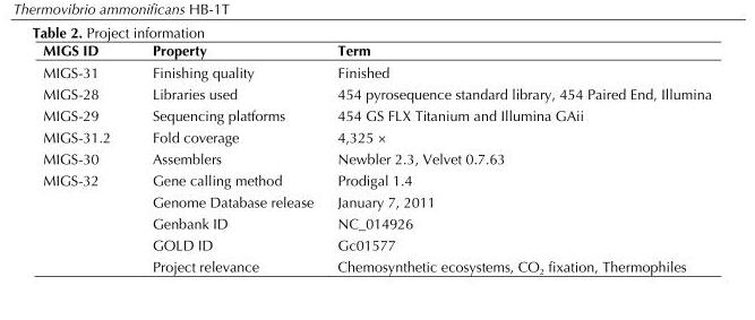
<table><thead><tr><td>MIGS ID</td><td>Property</td><td>Term</td></tr></thead><tbody><tr><td>MIGS-31</td><td>Finishing quality</td><td>Finished</td></tr><tr><td>MIGS-28</td><td>Libraries used</td><td>454 pyrosequence standard library, 454 Paired End, Illumina</td></tr><tr><td>MIGS-29</td><td>Sequencing platforms</td><td>454 GS FLX Titanium and Illumina GAii</td></tr><tr><td>MIGS-31.2</td><td>Fold coverage</td><td>4,325 ×</td></tr><tr><td>MIGS-30</td><td>Assemblers</td><td>Newbler 2.3, Velvet 0.7.63</td></tr><tr><td rowspan="5">MIGS-32</td><td>Gene calling method</td><td>Prodigal 1.4</td></tr><tr><td>Genome Database release</td><td>January 7, 2011</td></tr><tr><td>Genbank ID</td><td>NC_014926</td></tr><tr><td>GOLD ID</td><td>Gc01577</td></tr><tr><td>Project relevance</td><td>Chemosynthetic ecosystems, CO<sub>2</sub> fixation, Thermophiles</td></tr></tbody></table>